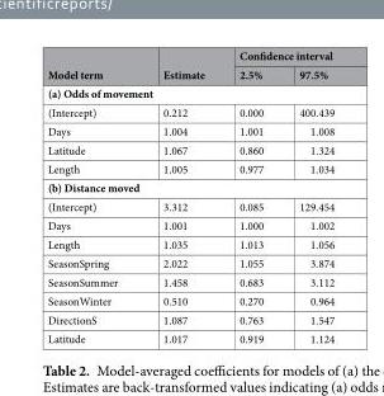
<table><thead><tr><td rowspan="2">Model term</td><td rowspan="2">Estimate</td><td colspan="2">Confidence interval</td></tr><tr><td>2.5%</td><td>97.5%</td></tr></thead><tbody><tr><td colspan="4">(a) Odds of movement</td></tr><tr><td>(Intercept)</td><td>0.212</td><td>0.000</td><td>400.439</td></tr><tr><td>Days</td><td>1.004</td><td>1.001</td><td>1.008</td></tr><tr><td>Latitude</td><td>1.067</td><td>0.860</td><td>1.324</td></tr><tr><td>Length</td><td>1.005</td><td>0.977</td><td>1.034</td></tr><tr><td colspan="4">(b) Distance moved</td></tr><tr><td>(Intercept)</td><td>3.312</td><td>0.085</td><td>129.454</td></tr><tr><td>Days</td><td>1.001</td><td>1.000</td><td>1.002</td></tr><tr><td>Length</td><td>1.035</td><td>1.013</td><td>1.056</td></tr><tr><td>SeasonSpring</td><td>2.022</td><td>1.055</td><td>3.874</td></tr><tr><td>SeasonSummer</td><td>1.458</td><td>0.683</td><td>3.112</td></tr><tr><td>SeasonWinter</td><td>0.510</td><td>0.270</td><td>0.964</td></tr><tr><td>DirectionS</td><td>1.087</td><td>0.763</td><td>1.547</td></tr><tr><td>Latitude</td><td>1.017</td><td>0.919</td><td>1.124</td></tr></tbody></table>